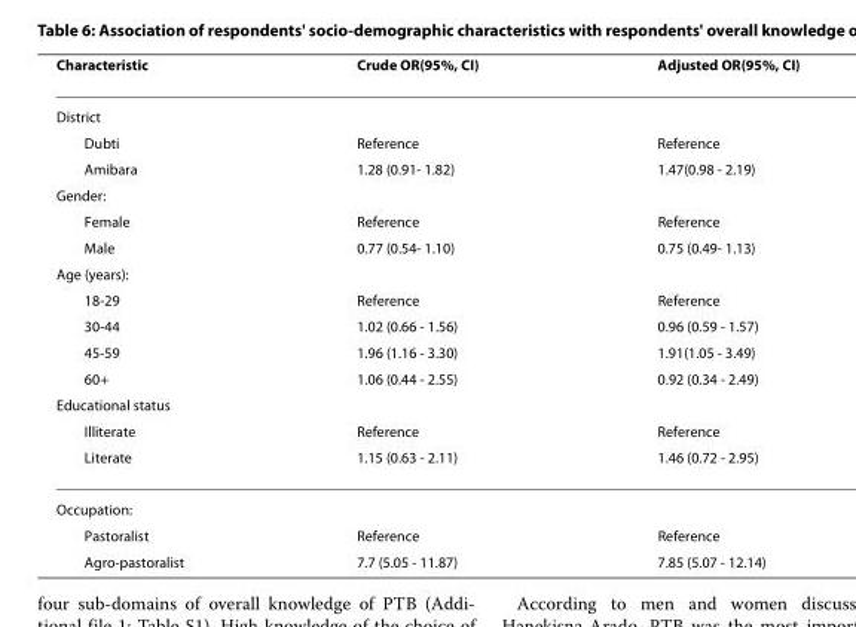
<table><thead><tr><td>Characteristic</td><td>Crude OR(95%, CI)</td><td>Adjusted OR(95%, CI)</td></tr></thead><tbody><tr><td colspan="3">District</td></tr><tr><td>Dubti</td><td>Reference</td><td>Reference</td></tr><tr><td>Amibara</td><td>1.28 (0.91- 1.82)</td><td>1.47(0.98 - 2.19)</td></tr><tr><td colspan="3">Gender:</td></tr><tr><td>Female</td><td>Reference</td><td>Reference</td></tr><tr><td>Male</td><td>0.77 (0.54- 1.10)</td><td>0.75 (0.49- 1.13)</td></tr><tr><td colspan="3">Age (years):</td></tr><tr><td>18-29</td><td>Reference</td><td>Reference</td></tr><tr><td>30-44</td><td>1.02 (0.66 - 1.56)</td><td>0.96 (0.59 - 1.57)</td></tr><tr><td>45-59</td><td>1.96 (1.16 - 3.30)</td><td>1.91(1.05 - 3.49)</td></tr><tr><td>60+</td><td>1.06 (0.44 - 2.55)</td><td>0.92 (0.34 - 2.49)</td></tr><tr><td colspan="3">Educational status</td></tr><tr><td>Illiterate</td><td>Reference</td><td>Reference</td></tr><tr><td>Literate</td><td>1.15 (0.63 - 2.11)</td><td>1.46 (0.72 - 2.95)</td></tr><tr><td colspan="3">Occupation:</td></tr><tr><td>Pastoralist</td><td>Reference</td><td>Reference</td></tr><tr><td>Agro-pastoralist</td><td>7.7 (5.05 - 11.87)</td><td>7.85 (5.07 - 12.14)</td></tr></tbody></table>